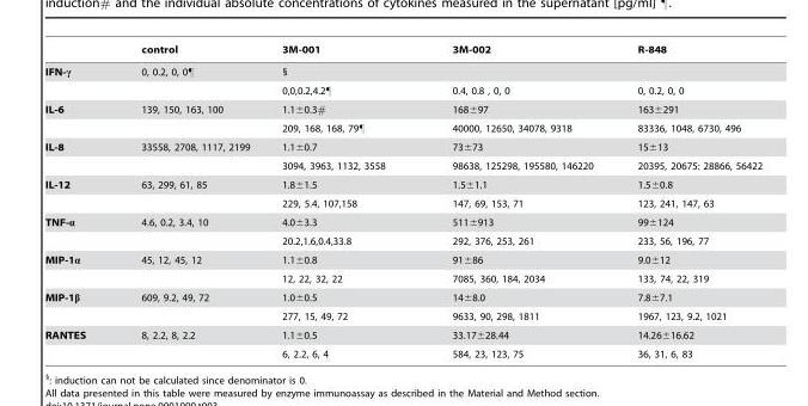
<table><thead><tr><td></td><td>control</td><td>3M-001</td><td>3M-002</td><td>R-848</td></tr></thead><tbody><tr><td rowspan="2">IFN-γ</td><td>0, 0.2, 0, 0¶</td><td>§</td><td></td><td></td></tr><tr><td></td><td>0,0,0.2,4.2¶</td><td>0.4, 0.8 , 0, 0</td><td>0, 0.2, 0, 0</td></tr><tr><td rowspan="2">IL-6</td><td>139, 150, 163, 100</td><td>1.1±0.3#</td><td>168±97</td><td>163±291</td></tr><tr><td></td><td>209, 168, 168, 79¶</td><td>40000, 12650, 34078, 9318</td><td>83336, 1048, 6730, 496</td></tr><tr><td rowspan="2">IL-8</td><td>33558, 2708, 1117, 2199</td><td>1.1±0.7</td><td>73±73</td><td>15±13</td></tr><tr><td></td><td>3094, 3963, 1132, 3558</td><td>98638, 125298, 195580, 146220</td><td>20395, 20675: 28866, 56422</td></tr><tr><td rowspan="2">IL-12</td><td>63, 299, 61, 85</td><td>1.8±1.5</td><td>1.5±1.1</td><td>1.5±0.8</td></tr><tr><td></td><td>229, 5.4, 107,158</td><td>147, 69, 153, 71</td><td>123, 241, 147, 63</td></tr><tr><td rowspan="2">TNF-α</td><td>4.6, 0.2, 3.4, 10</td><td>4.0±3.3</td><td>511±913</td><td>99±124</td></tr><tr><td></td><td>20.2,1.6,0.4,33.8</td><td>292, 376, 253, 261</td><td>233, 56, 196, 77</td></tr><tr><td rowspan="2">MIP-1α</td><td>45, 12, 45, 12</td><td>1.1±0.8</td><td>91±86</td><td>9.0±12</td></tr><tr><td></td><td>12, 22, 32, 22</td><td>7085, 360, 184, 2034</td><td>133, 74, 22, 319</td></tr><tr><td rowspan="2">MIP-1β</td><td>609, 9.2, 49, 72</td><td>1.0±0.5</td><td>14±8.0</td><td>7.8±7.1</td></tr><tr><td></td><td>277, 15, 49, 72</td><td>9633, 90, 298, 1811</td><td>1967, 123, 9.2, 1021</td></tr><tr><td rowspan="2">RANTES</td><td>8, 2.2, 8, 2.2</td><td>1.1±0.5</td><td>33.17±28.44</td><td>14.26±16.62</td></tr><tr><td></td><td>6, 2.2, 6, 4</td><td>584, 23, 123, 75</td><td>36, 31, 6, 83</td></tr></tbody></table>